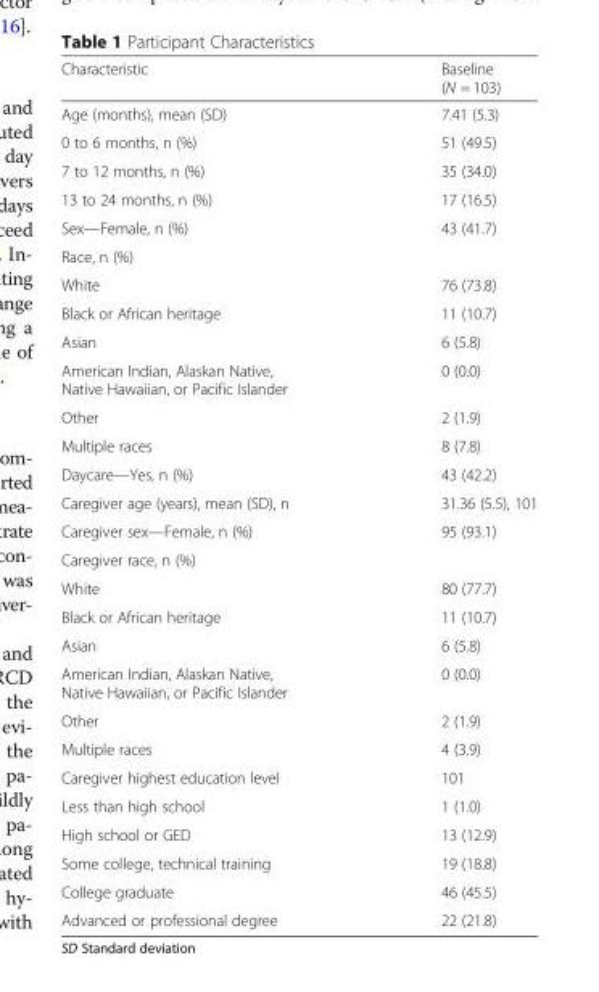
<table><thead><tr><td>Characteristic</td><td>Baseline (N = 103)</td></tr></thead><tbody><tr><td>Age (months), mean (SD)</td><td>7.41 (5.3)</td></tr><tr><td>0 to 6 months, n (%)</td><td>51 (49.5)</td></tr><tr><td>7 to 12 months, n (%)</td><td>35 (34.0)</td></tr><tr><td>13 to 24 months, n (%)</td><td>17 (16.5)</td></tr><tr><td>Sex—Female, n (%)</td><td>43 (41.7)</td></tr><tr><td colspan="2">Race, n (%)</td></tr><tr><td>White</td><td>76 (73.8)</td></tr><tr><td>Black or African heritage</td><td>11 (10.7)</td></tr><tr><td>Asian</td><td>6 (5.8)</td></tr><tr><td>American Indian, Alaskan Native, Native Hawaiian, or Pacific Islander</td><td>0 (0.0)</td></tr><tr><td>Other</td><td>2 (1.9)</td></tr><tr><td>Multiple races</td><td>8 (7.8)</td></tr><tr><td>Daycare—Yes, n (%)</td><td>43 (42.2)</td></tr><tr><td>Caregiver age (years), mean (SD), n</td><td>31.36 (5.5), 101</td></tr><tr><td>Caregiver sex—Female, n (%)</td><td>95 (93.1)</td></tr><tr><td colspan="2">Caregiver race, n (%)</td></tr><tr><td>White</td><td>80 (77.7)</td></tr><tr><td>Black or African heritage</td><td>11 (10.7)</td></tr><tr><td>Asian</td><td>6 (5.8)</td></tr><tr><td>American Indian, Alaskan Native, Native Hawaiian, or Pacific Islander</td><td>0 (0.0)</td></tr><tr><td>Other</td><td>2 (1.9)</td></tr><tr><td>Multiple races</td><td>4 (3.9)</td></tr><tr><td>Caregiver highest education level</td><td>101</td></tr><tr><td>Less than high school</td><td>1 (1.0)</td></tr><tr><td>High school or GED</td><td>13 (12.9)</td></tr><tr><td>Some college, technical training</td><td>19 (18.8)</td></tr><tr><td>College graduate</td><td>46 (45.5)</td></tr><tr><td>Advanced or professional degree</td><td>22 (21.8)</td></tr></tbody></table>